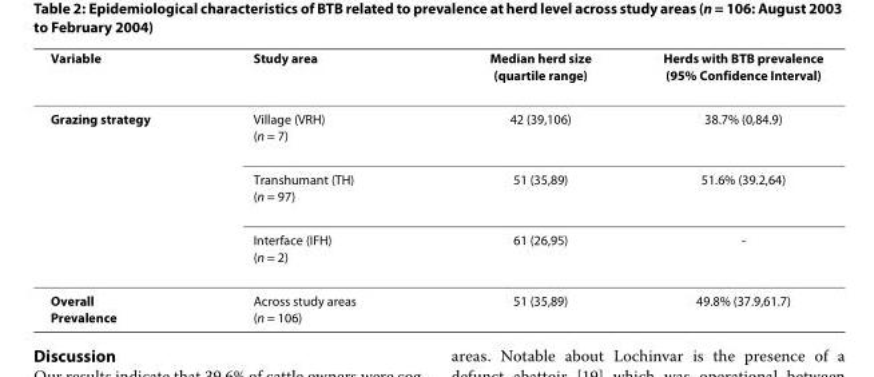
<table><thead><tr><td>Variable</td><td>Study area</td><td>Median herd size (quartile range)</td><td>Herds with BTB prevalence (95% Confidence Interval)</td></tr></thead><tbody><tr><td rowspan="3">Grazing strategy</td><td>Village (VRH) (n = 7)</td><td>42 (39,106)</td><td>38.7% (0,84.9)</td></tr><tr><td>Transhumant (TH) (n = 97)</td><td>51 (35,89)</td><td>51.6% (39.2,64)</td></tr><tr><td>Interface (IFH) (n = 2)</td><td>61 (26,95)</td><td>-</td></tr><tr><td>Overall Prevalence</td><td>Across study areas (n = 106)</td><td>51 (35,89)</td><td>49.8% (37.9,61.7)</td></tr></tbody></table>